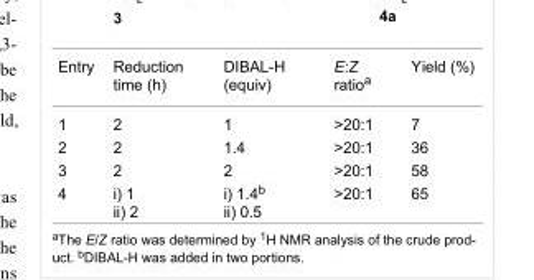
<table><tbody><tr><td>Entry</td><td>Reduction time (h)</td><td>DIBAL-H (equiv)</td><td>E:Z ratio<sup>a</sup></td><td>Yield (%)</td></tr><tr><td>1</td><td>2</td><td>1</td><td>&gt;20:1</td><td>7</td></tr><tr><td>2</td><td>2</td><td>1.4</td><td>&gt;20:1</td><td>36</td></tr><tr><td>3</td><td>2</td><td>2</td><td>&gt;20:1</td><td>58</td></tr><tr><td>4</td><td>i) 1 ii) 2</td><td>i) 1.4<sup>b</sup> ii) 0.5</td><td>&gt;20:1</td><td>65</td></tr></tbody></table>